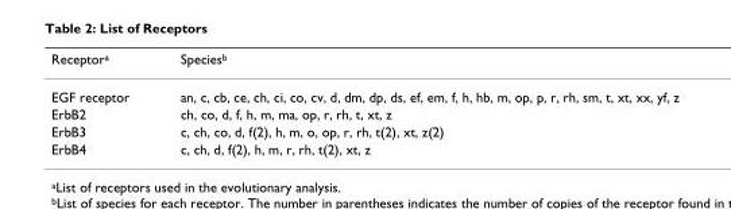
<table><thead><tr><td>Receptor<sup>a</sup></td><td>Species<sup>b</sup></td></tr></thead><tbody><tr><td>EGF receptor</td><td>an, c, cb, ce, ch, ci, co, cv, d, dm, dp, ds, ef, em, f, h, hb, m, op, p, r, rh, sm, t, xt, xx, yf, z</td></tr><tr><td>ErbB2</td><td>ch, co, d, f, h, m, ma, op, r, rh, t, xt, z</td></tr><tr><td>ErbB3</td><td>c, ch, co, d, f(2), h, m, o, op, r, rh, t(2), xt, z(2)</td></tr><tr><td>ErbB4</td><td>c, ch, d, f(2), h, m, r, rh, t(2), xt, z</td></tr></tbody></table>